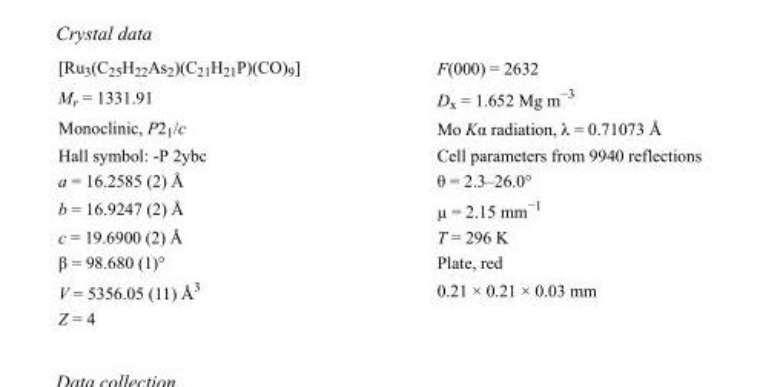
<table><tbody><tr><td>[Ru<sub>3</sub>(C<sub>25</sub>H<sub>22</sub>As<sub>2</sub>)(C<sub>21</sub>H<sub>21</sub>P)(CO)<sub>9</sub>]</td><td>F(000) = 2632</td></tr><tr><td>M<sub>r</sub> = 1331.91</td><td>D<sub>x</sub> = 1.652 Mg m<sup>−3</sup></td></tr><tr><td>Monoclinic, P2<sub>1</sub>/c</td><td>Mo Kα radiation, λ = 0.71073 Å</td></tr><tr><td>Hall symbol: -P 2ybc</td><td>Cell parameters from 9940 reflections</td></tr><tr><td>a = 16.2585 (2) Å</td><td>θ = 2.3–26.0°</td></tr><tr><td>b = 16.9247 (2) Å</td><td>µ = 2.15 mm<sup>−1</sup></td></tr><tr><td>c = 19.6900 (2) Å</td><td>T = 296 K</td></tr><tr><td>β = 98.680 (1)°</td><td>Plate, red</td></tr><tr><td>V = 5356.05 (11) Å<sup>3</sup></td><td>0.21 × 0.21 × 0.03 mm</td></tr><tr><td>Z = 4</td><td></td></tr></tbody></table>